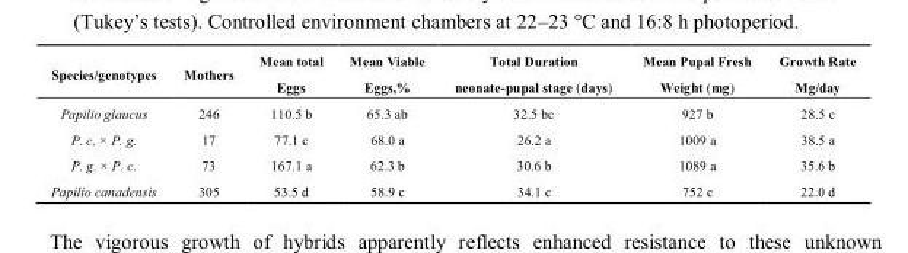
<table><thead><tr><td>Species/genotypes</td><td>Mothers</td><td>Mean total Eggs</td><td>Mean Viable Eggs,%</td><td>Total Duration neonate-pupal stage (days)</td><td>Mean Pupal Fresh Weight (mg)</td><td>Growth Rate Mg/day</td></tr></thead><tbody><tr><td>Papilio glaucus</td><td>246</td><td>110.5 b</td><td>65.3 ab</td><td>32.5 bc</td><td>927 b</td><td>28.5 c</td></tr><tr><td>P. c. × P. g.</td><td>17</td><td>77.1 c</td><td>68.0 a</td><td>26.2 a</td><td>1009 a</td><td>38.5 a</td></tr><tr><td>P. g. × P. c.</td><td>73</td><td>167.1 a</td><td>62.3 b</td><td>30.6 b</td><td>1089 a</td><td>35.6 b</td></tr><tr><td>Papilio canadensis</td><td>305</td><td>53.5 d</td><td>58.9 c</td><td>34.1 c</td><td>752 c</td><td>22.0 d</td></tr></tbody></table>